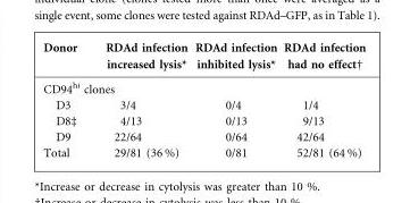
<table><thead><tr><td>Donor</td><td>RDAd infection increased lysis*</td><td>RDAd infection inhibited lysis*</td><td>RDAd infection had no effect†</td></tr></thead><tbody><tr><td colspan="4">CD94<sup>hi</sup> clones</td></tr><tr><td>D3</td><td>3/4</td><td>0/4</td><td>1/4</td></tr><tr><td>D8‡</td><td>4/13</td><td>0/13</td><td>9/13</td></tr><tr><td>D9</td><td>22/64</td><td>0/64</td><td>42/64</td></tr><tr><td>Total</td><td>29/81 (36 %)</td><td>0/81</td><td>52/81 (64 %)</td></tr></tbody></table>